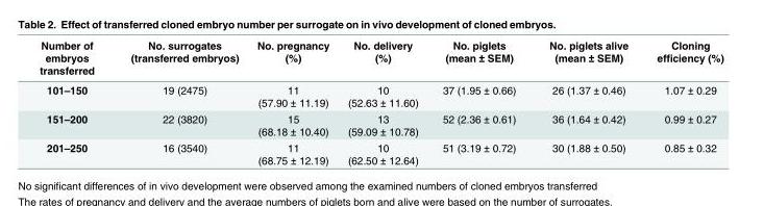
<table><thead><tr><td>Number of embryos transferred</td><td>No. surrogates (transferred embryos)</td><td>No. pregnancy (%)</td><td>No. delivery (%)</td><td>No. piglets (mean ± SEM)</td><td>No. piglets alive (mean ± SEM)</td><td>Cloning efficiency (%)</td></tr></thead><tbody><tr><td>101–150</td><td>19 (2475)</td><td>11 (57.90 ± 11.19)</td><td>10 (52.63 ± 11.60)</td><td>37 (1.95 ± 0.66)</td><td>26 (1.37 ± 0.46)</td><td>1.07 ± 0.29</td></tr><tr><td>151–200</td><td>22 (3820)</td><td>15 (68.18 ± 10.40)</td><td>13 (59.09 ± 10.78)</td><td>52 (2.36 ± 0.61)</td><td>36 (1.64 ± 0.42)</td><td>0.99 ± 0.27</td></tr><tr><td>201–250</td><td>16 (3540)</td><td>11 (68.75 ± 12.19)</td><td>10 (62.50 ± 12.64)</td><td>51 (3.19 ± 0.72)</td><td>30 (1.88 ± 0.50)</td><td>0.85 ± 0.32</td></tr></tbody></table>